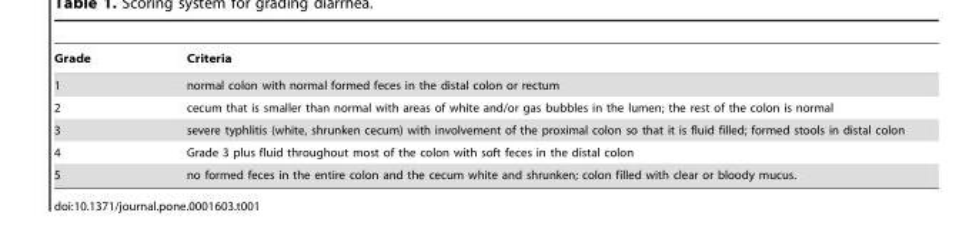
<table><thead><tr><td>Grade</td><td>Criteria</td></tr></thead><tbody><tr><td>1</td><td>normal colon with normal formed feces in the distal colon or rectum</td></tr><tr><td>2</td><td>cecum that is smaller than normal with areas of white and/or gas bubbles in the lumen; the rest of the colon is normal</td></tr><tr><td>3</td><td>severe typhlitis (white, shrunken cecum) with involvement of the proximal colon so that it is fluid filled; formed stools in distal colon</td></tr><tr><td>4</td><td>Grade 3 plus fluid throughout most of the colon with soft feces in the distal colon</td></tr><tr><td>5</td><td>no formed feces in the entire colon and the cecum white and shrunken; colon filled with clear or bloody mucus.</td></tr></tbody></table>